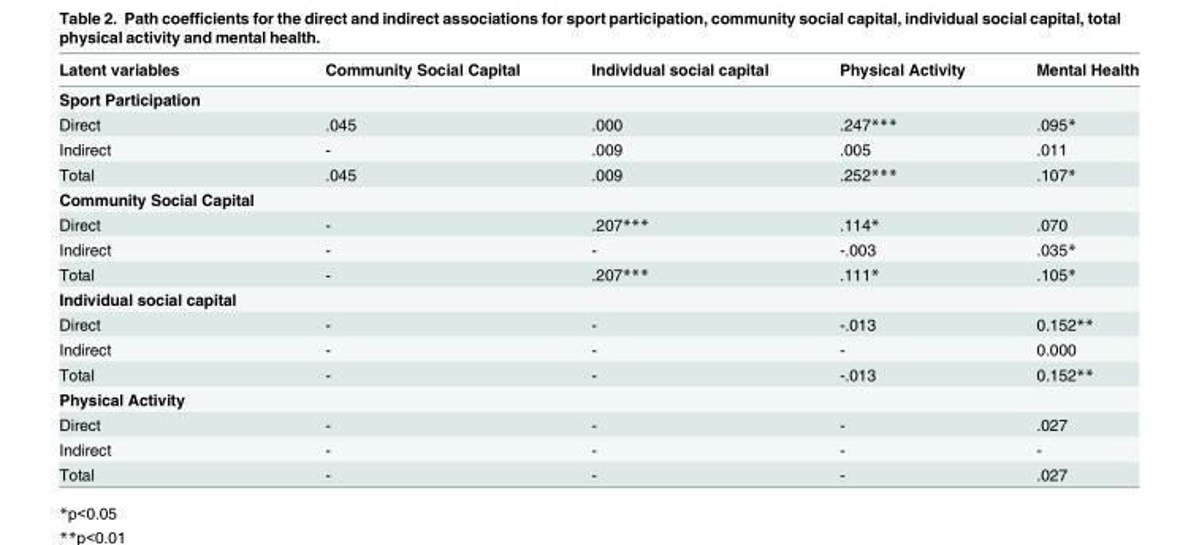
<table><thead><tr><td>Latent variables</td><td>Community Social Capital</td><td>Individual social capital</td><td>Physical Activity</td><td>Mental Health</td></tr></thead><tbody><tr><td colspan="5">Sport Participation</td></tr><tr><td>Direct</td><td>.045</td><td>.000</td><td>.247***</td><td>.095*</td></tr><tr><td>Indirect</td><td>-</td><td>.009</td><td>.005</td><td>.011</td></tr><tr><td>Total</td><td>.045</td><td>.009</td><td>.252***</td><td>.107*</td></tr><tr><td colspan="5">Community Social Capital</td></tr><tr><td>Direct</td><td>-</td><td>.207***</td><td>.114*</td><td>.070</td></tr><tr><td>Indirect</td><td>-</td><td>-</td><td>-.003</td><td>.035*</td></tr><tr><td>Total</td><td>-</td><td>.207***</td><td>.111*</td><td>.105*</td></tr><tr><td colspan="5">Individual social capital</td></tr><tr><td>Direct</td><td>-</td><td>-</td><td>-.013</td><td>0.152**</td></tr><tr><td>Indirect</td><td>-</td><td>-</td><td>-</td><td>0.000</td></tr><tr><td>Total</td><td>-</td><td>-</td><td>-.013</td><td>0.152**</td></tr><tr><td colspan="5">Physical Activity</td></tr><tr><td>Direct</td><td>-</td><td>-</td><td>-</td><td>.027</td></tr><tr><td>Indirect</td><td>-</td><td>-</td><td>-</td><td>-</td></tr><tr><td>Total</td><td>-</td><td>-</td><td>-</td><td>.027</td></tr></tbody></table>